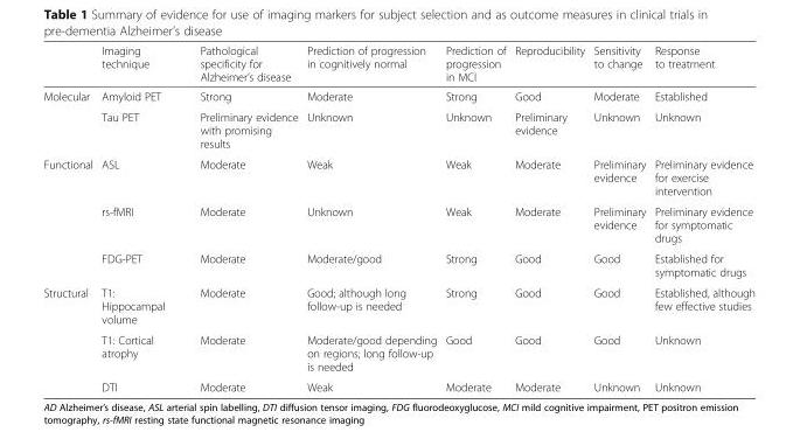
<table><thead><tr><td></td><td>Imaging technique</td><td>Pathological specificity for Alzheimer’s disease</td><td>Prediction of progression in cognitively normal</td><td>Prediction of progression in MCI</td><td>Reproducibility</td><td>Sensitivity to change</td><td>Response to treatment</td></tr></thead><tbody><tr><td rowspan="2">Molecular</td><td>Amyloid PET</td><td>Strong</td><td>Moderate</td><td>Strong</td><td>Good</td><td>Moderate</td><td>Established</td></tr><tr><td>Tau PET</td><td>Preliminary evidence with promising results</td><td>Unknown</td><td>Unknown</td><td>Preliminary evidence</td><td>Unknown</td><td>Unknown</td></tr><tr><td rowspan="3">Functional</td><td>ASL</td><td>Moderate</td><td>Weak</td><td>Weak</td><td>Moderate</td><td>Preliminary evidence</td><td>Preliminary evidence for exercise intervention</td></tr><tr><td>rs-fMRI</td><td>Moderate</td><td>Unknown</td><td>Weak</td><td>Moderate</td><td>Preliminary evidence</td><td>Preliminary evidence for symptomatic drugs</td></tr><tr><td>FDG-PET</td><td>Moderate</td><td>Moderate/good</td><td>Strong</td><td>Good</td><td>Good</td><td>Established for symptomatic drugs</td></tr><tr><td rowspan="3">Structural</td><td>T1: Hippocampal volume</td><td>Moderate</td><td>Good; although long follow-up is needed</td><td>Strong</td><td>Good</td><td>Good</td><td>Established, although few effective studies</td></tr><tr><td>T1: Cortical atrophy</td><td>Moderate</td><td>Moderate/good depending on regions; long follow-up is needed</td><td>Good</td><td>Good</td><td>Good</td><td>Unknown</td></tr><tr><td>DTI</td><td>Moderate</td><td>Weak</td><td>Moderate</td><td>Moderate</td><td>Unknown</td><td>Unknown</td></tr></tbody></table>